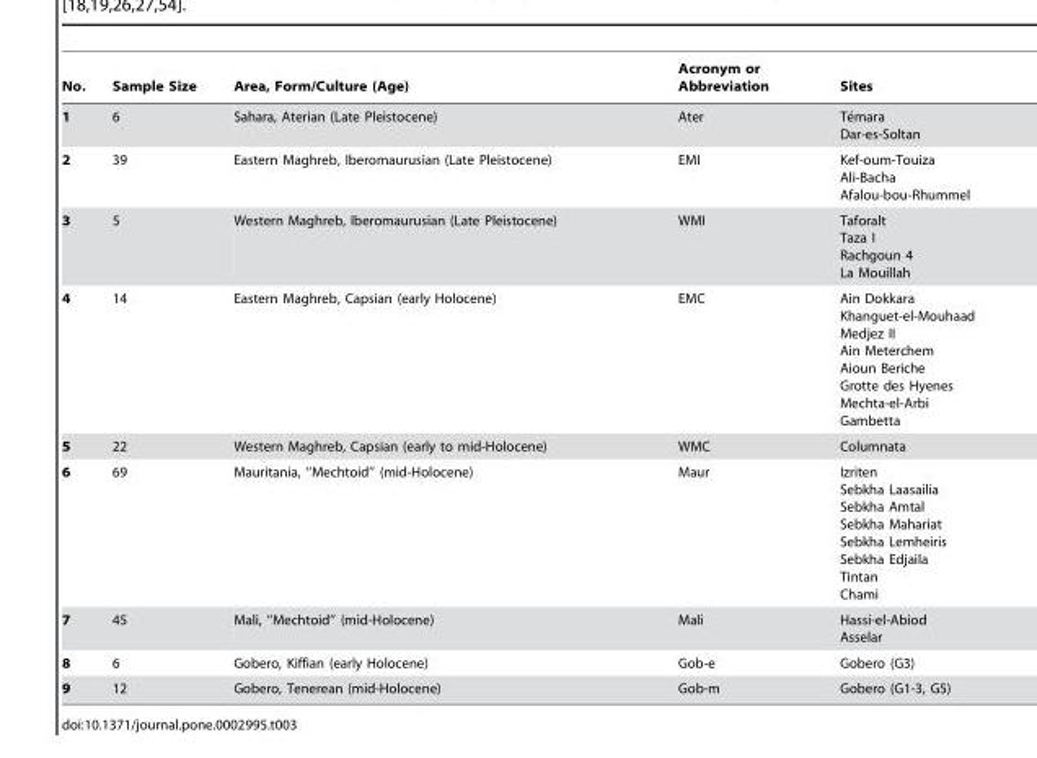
<table><thead><tr><td>No.</td><td>Sample Size</td><td>Area, Form/Culture (Age)</td><td>Acronym or Abbreviation</td><td>Sites</td></tr></thead><tbody><tr><td>1</td><td>6</td><td>Sahara, Aterian (Late Pleistocene)</td><td>Ater</td><td>Te´mara Dar-es-Soltan</td></tr><tr><td>2</td><td>39</td><td>Eastern Maghreb, Iberomaurusian (Late Pleistocene)</td><td>EMI</td><td>Kef-oum-Touiza Ali-Bacha Afalou-bou-Rhummel</td></tr><tr><td>3</td><td>5</td><td>Western Maghreb, Iberomaurusian (Late Pleistocene)</td><td>WMI</td><td>Taforalt Taza I Rachgoun 4 La Mouillah</td></tr><tr><td>4</td><td>14</td><td>Eastern Maghreb, Capsian (early Holocene)</td><td>EMC</td><td>Ain Dokkara Khanguet-el-Mouhaad Medjez II Ain Meterchem Aioun Beriche Grotte des Hyenes Mechta-el-Arbi Gambetta</td></tr><tr><td>5</td><td>22</td><td>Western Maghreb, Capsian (early to mid-Holocene)</td><td>WMC</td><td>Columnata</td></tr><tr><td>6</td><td>69</td><td>Mauritania, ‘‘Mechtoid’’ (mid-Holocene)</td><td>Maur</td><td>Izriten Sebkha Laasailia Sebkha Amtal Sebkha Mahariat Sebkha Lemheiris Sebkha Edjaila Tintan Chami</td></tr><tr><td>7</td><td>45</td><td>Mali, ‘‘Mechtoid’’ (mid-Holocene)</td><td>Mali</td><td>Hassi-el-Abiod Asselar</td></tr><tr><td>8</td><td>6</td><td>Gobero, Kiffian (early Holocene)</td><td>Gob-e</td><td>Gobero (G3)</td></tr><tr><td>9</td><td>12</td><td>Gobero, Tenerean (mid-Holocene)</td><td>Gob-m</td><td>Gobero (G1-3, G5)</td></tr></tbody></table>